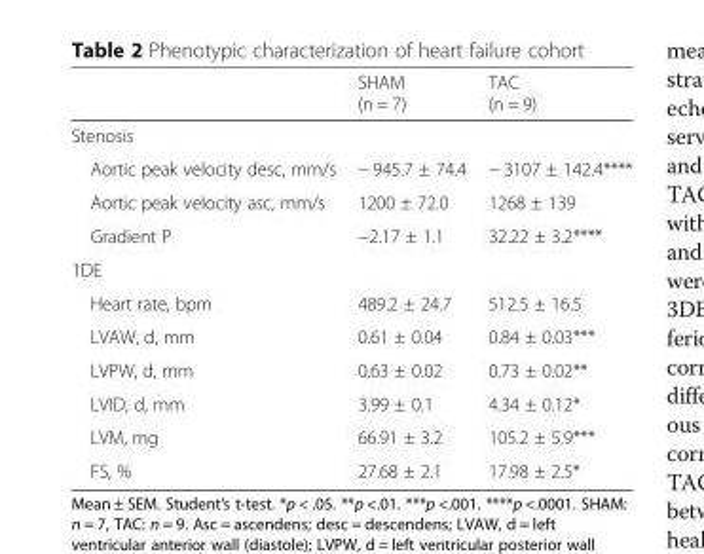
<table><thead><tr><td></td><td>SHAM (n = 7)</td><td>TAC (n = 9)</td></tr></thead><tbody><tr><td colspan="3">Stenosis</td></tr><tr><td>Aortic peak velocity desc, mm/s</td><td>− 945.7 ± 74.4</td><td>− 3107 ± 142.4****</td></tr><tr><td>Aortic peak velocity asc, mm/s</td><td>1200 ± 72.0</td><td>1268 ± 139</td></tr><tr><td>Gradient P</td><td>−2.17 ± 1.1</td><td>32.22 ± 3.2****</td></tr><tr><td colspan="3">1DE</td></tr><tr><td>Heart rate, bpm</td><td>489.2 ± 24.7</td><td>512.5 ± 16.5</td></tr><tr><td>LVAW, d, mm</td><td>0.61 ± 0.04</td><td>0.84 ± 0.03***</td></tr><tr><td>LVPW, d, mm</td><td>0.63 ± 0.02</td><td>0.73 ± 0.02**</td></tr><tr><td>LVID, d, mm</td><td>3.99 ± 0.1</td><td>4.34 ± 0.12*</td></tr><tr><td>LVM, mg</td><td>66.91 ± 3.2</td><td>105.2 ± 5.9***</td></tr><tr><td>FS, %</td><td>27.68 ± 2.1</td><td>17.98 ± 2.5*</td></tr></tbody></table>